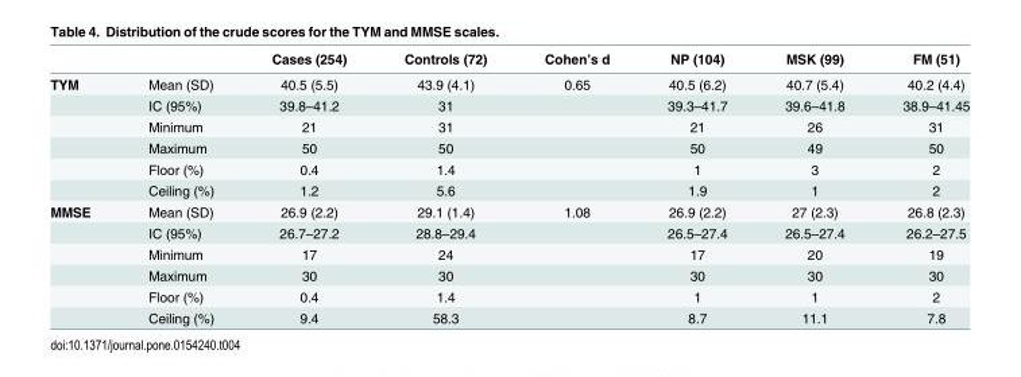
<table><thead><tr><td></td><td></td><td>Cases (254)</td><td>Controls (72)</td><td>Cohen’s d</td><td>NP (104)</td><td>MSK (99)</td><td>FM (51)</td></tr></thead><tbody><tr><td rowspan="6">TYM</td><td>Mean (SD)</td><td>40.5 (5.5)</td><td>43.9 (4.1)</td><td>0.65</td><td>40.5 (6.2)</td><td>40.7 (5.4)</td><td>40.2 (4.4)</td></tr><tr><td>IC (95%)</td><td>39.8–41.2</td><td>31</td><td></td><td>39.3–41.7</td><td>39.6–41.8</td><td>38.9–41.45</td></tr><tr><td>Minimum</td><td>21</td><td>31</td><td></td><td>21</td><td>26</td><td>31</td></tr><tr><td>Maximum</td><td>50</td><td>50</td><td></td><td>50</td><td>49</td><td>50</td></tr><tr><td>Floor (%)</td><td>0.4</td><td>1.4</td><td></td><td>1</td><td>3</td><td>2</td></tr><tr><td>Ceiling (%)</td><td>1.2</td><td>5.6</td><td></td><td>1.9</td><td>1</td><td>2</td></tr><tr><td rowspan="6">MMSE</td><td>Mean (SD)</td><td>26.9 (2.2)</td><td>29.1 (1.4)</td><td>1.08</td><td>26.9 (2.2)</td><td>27 (2.3)</td><td>26.8 (2.3)</td></tr><tr><td>IC (95%)</td><td>26.7–27.2</td><td>28.8–29.4</td><td></td><td>26.5–27.4</td><td>26.5–27.4</td><td>26.2–27.5</td></tr><tr><td>Minimum</td><td>17</td><td>24</td><td></td><td>17</td><td>20</td><td>19</td></tr><tr><td>Maximum</td><td>30</td><td>30</td><td></td><td>30</td><td>30</td><td>30</td></tr><tr><td>Floor (%)</td><td>0.4</td><td>1.4</td><td></td><td>1</td><td>1</td><td>2</td></tr><tr><td>Ceiling (%)</td><td>9.4</td><td>58.3</td><td></td><td>8.7</td><td>11.1</td><td>7.8</td></tr></tbody></table>